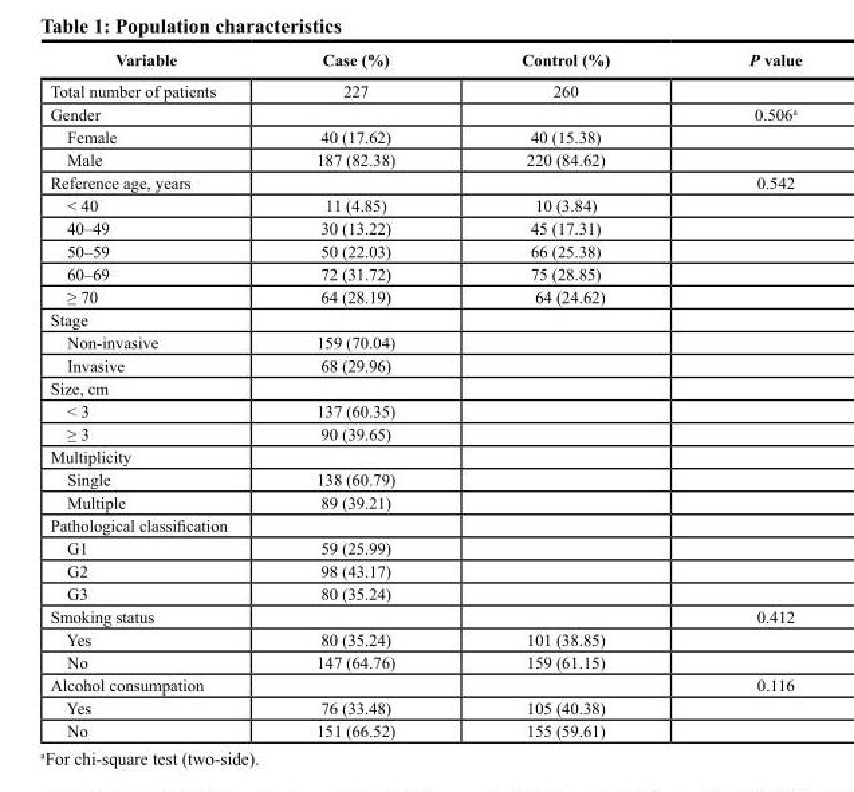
<table><thead><tr><td>Variable</td><td>Case (%)</td><td>Control (%)</td><td>P value</td></tr></thead><tbody><tr><td>Total number of patients</td><td>227</td><td>260</td><td></td></tr><tr><td>Gender</td><td></td><td></td><td>0.506<sup>a</sup></td></tr><tr><td>Female</td><td>40 (17.62)</td><td>40 (15.38)</td><td></td></tr><tr><td>Male</td><td>187 (82.38)</td><td>220 (84.62)</td><td></td></tr><tr><td>Reference age, years</td><td></td><td></td><td>0.542</td></tr><tr><td>&lt; 40</td><td>11 (4.85)</td><td>10 (3.84)</td><td></td></tr><tr><td>40–49</td><td>30 (13.22)</td><td>45 (17.31)</td><td></td></tr><tr><td>50–59</td><td>50 (22.03)</td><td>66 (25.38)</td><td></td></tr><tr><td>60–69</td><td>72 (31.72)</td><td>75 (28.85)</td><td></td></tr><tr><td>≥ 70</td><td>64 (28.19)</td><td>64 (24.62)</td><td></td></tr><tr><td colspan="4">Stage</td></tr><tr><td>Non-invasive</td><td>159 (70.04)</td><td></td><td></td></tr><tr><td>Invasive</td><td>68 (29.96)</td><td></td><td></td></tr><tr><td colspan="4">Size, cm</td></tr><tr><td>&lt; 3</td><td>137 (60.35)</td><td></td><td></td></tr><tr><td>≥ 3</td><td>90 (39.65)</td><td></td><td></td></tr><tr><td colspan="4">Multiplicity</td></tr><tr><td>Single</td><td>138 (60.79)</td><td></td><td></td></tr><tr><td>Multiple</td><td>89 (39.21)</td><td></td><td></td></tr><tr><td colspan="4">Pathological classification</td></tr><tr><td>G1</td><td>59 (25.99)</td><td></td><td></td></tr><tr><td>G2</td><td>98 (43.17)</td><td></td><td></td></tr><tr><td>G3</td><td>80 (35.24)</td><td></td><td></td></tr><tr><td>Smoking status</td><td></td><td></td><td>0.412</td></tr><tr><td>Yes</td><td>80 (35.24)</td><td>101 (38.85)</td><td></td></tr><tr><td>No</td><td>147 (64.76)</td><td>159 (61.15)</td><td></td></tr><tr><td>Alcohol consumpation</td><td></td><td></td><td>0.116</td></tr><tr><td>Yes</td><td>76 (33.48)</td><td>105 (40.38)</td><td></td></tr><tr><td>No</td><td>151 (66.52)</td><td>155 (59.61)</td><td></td></tr></tbody></table>